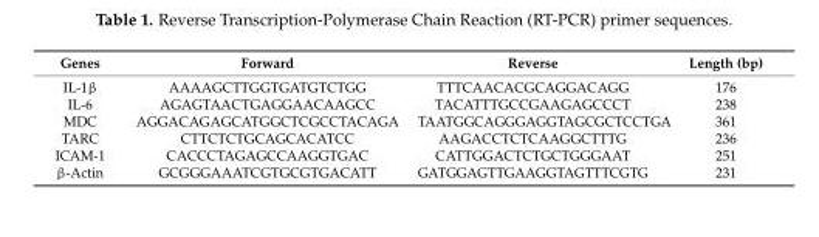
<table><thead><tr><td>Genes</td><td>Forward</td><td>Reverse</td><td>Length (bp)</td></tr></thead><tbody><tr><td>IL-1β</td><td>AAAAGCTTGGTGATGTCTGG</td><td>TTTCAACACGCAGGACAGG</td><td>176</td></tr><tr><td>IL-6</td><td>AGAGTAACTGAGGAACAAGCC</td><td>TACATTTGCCGAAGAGCCCT</td><td>238</td></tr><tr><td>MDC</td><td>AGGACAGAGCATGGCTCGCCTACAGA</td><td>TAATGGCAGGGAGGTAGCGCTCCTGA</td><td>361</td></tr><tr><td>TARC</td><td>CTTCTCTGCAGCACATCC</td><td>AAGACCTCTCAAGGCTTTG</td><td>236</td></tr><tr><td>ICAM-1</td><td>CACCCTAGAGCCAAGGTGAC</td><td>CATTGGACTCTGCTGGGAAT</td><td>251</td></tr><tr><td>β-Actin</td><td>GCGGGAAATCGTGCGTGACATT</td><td>GATGGAGTTGAAGGTAGTTTCGTG</td><td>231</td></tr></tbody></table>